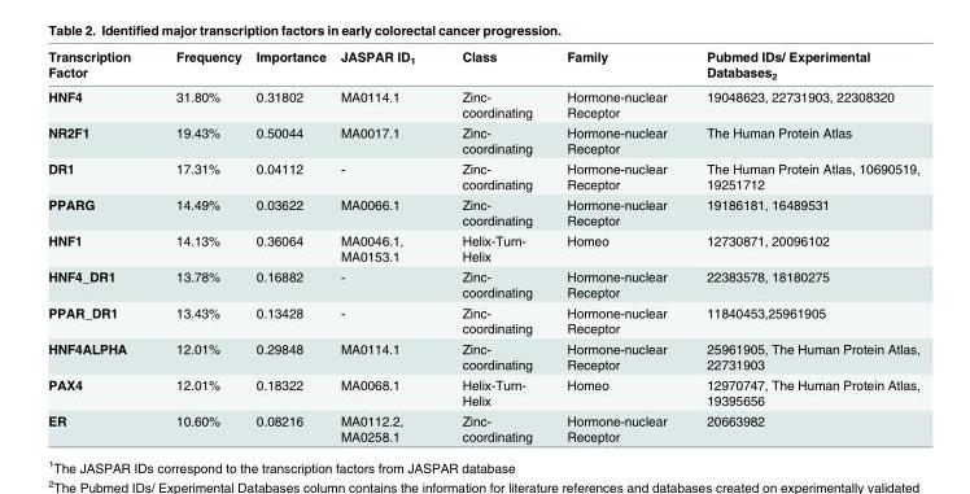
<table><thead><tr><td>Transcription Factor</td><td>Frequency</td><td>Importance</td><td>JASPAR ID<sub>1</sub></td><td>Class</td><td>Family</td><td>Pubmed IDs/ Experimental Databases<sub>2</sub></td></tr></thead><tbody><tr><td>HNF4</td><td>31.80%</td><td>0.31802</td><td>MA0114.1</td><td>Zinc- coordinating</td><td>Hormone-nuclear Receptor</td><td>19048623, 22731903, 22308320</td></tr><tr><td>NR2F1</td><td>19.43%</td><td>0.50044</td><td>MA0017.1</td><td>Zinc- coordinating</td><td>Hormone-nuclear Receptor</td><td>The Human Protein Atlas</td></tr><tr><td>DR1</td><td>17.31%</td><td>0.04112</td><td>-</td><td>Zinc- coordinating</td><td>Hormone-nuclear Receptor</td><td>The Human Protein Atlas, 10690519, 19251712</td></tr><tr><td>PPARG</td><td>14.49%</td><td>0.03622</td><td>MA0066.1</td><td>Zinc- coordinating</td><td>Hormone-nuclear Receptor</td><td>19186181, 16489531</td></tr><tr><td>HNF1</td><td>14.13%</td><td>0.36064</td><td>MA0046.1, MA0153.1</td><td>Helix-Turn- Helix</td><td>Homeo</td><td>12730871, 20096102</td></tr><tr><td>HNF4_DR1</td><td>13.78%</td><td>0.16882</td><td>-</td><td>Zinc- coordinating</td><td>Hormone-nuclear Receptor</td><td>22383578, 18180275</td></tr><tr><td>PPAR_DR1</td><td>13.43%</td><td>0.13428</td><td>-</td><td>Zinc- coordinating</td><td>Hormone-nuclear Receptor</td><td>11840453,25961905</td></tr><tr><td>HNF4ALPHA</td><td>12.01%</td><td>0.29848</td><td>MA0114.1</td><td>Zinc- coordinating</td><td>Hormone-nuclear Receptor</td><td>25961905, The Human Protein Atlas, 22731903</td></tr><tr><td>PAX4</td><td>12.01%</td><td>0.18322</td><td>MA0068.1</td><td>Helix-Turn- Helix</td><td>Homeo</td><td>12970747, The Human Protein Atlas, 19395656</td></tr><tr><td>ER</td><td>10.60%</td><td>0.08216</td><td>MA0112.2, MA0258.1</td><td>Zinc- coordinating</td><td>Hormone-nuclear Receptor</td><td>20663982</td></tr></tbody></table>